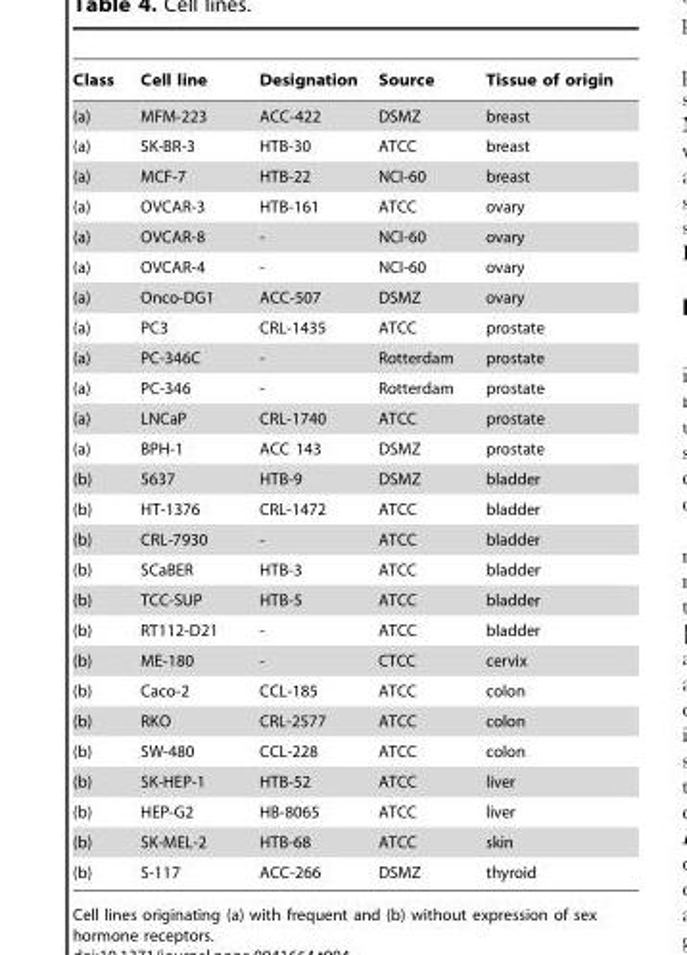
<table><thead><tr><td>Class</td><td>Cell line</td><td>Designation</td><td>Source</td><td>Tissue of origin</td></tr></thead><tbody><tr><td>(a)</td><td>MFM-223</td><td>ACC-422</td><td>DSMZ</td><td>breast</td></tr><tr><td>(a)</td><td>SK-BR-3</td><td>HTB-30</td><td>ATCC</td><td>breast</td></tr><tr><td>(a)</td><td>MCF-7</td><td>HTB-22</td><td>NCI-60</td><td>breast</td></tr><tr><td>(a)</td><td>OVCAR-3</td><td>HTB-161</td><td>ATCC</td><td>ovary</td></tr><tr><td>(a)</td><td>OVCAR-8</td><td>-</td><td>NCI-60</td><td>ovary</td></tr><tr><td>(a)</td><td>OVCAR-4</td><td>-</td><td>NCI-60</td><td>ovary</td></tr><tr><td>(a)</td><td>Onco-DG1</td><td>ACC-507</td><td>DSMZ</td><td>ovary</td></tr><tr><td>(a)</td><td>PC3</td><td>CRL-1435</td><td>ATCC</td><td>prostate</td></tr><tr><td>(a)</td><td>PC-346C</td><td>-</td><td>Rotterdam</td><td>prostate</td></tr><tr><td>(a)</td><td>PC-346</td><td>-</td><td>Rotterdam</td><td>prostate</td></tr><tr><td>(a)</td><td>LNCaP</td><td>CRL-1740</td><td>ATCC</td><td>prostate</td></tr><tr><td>(a)</td><td>BPH-1</td><td>ACC 143</td><td>DSMZ</td><td>prostate</td></tr><tr><td>(b)</td><td>5637</td><td>HTB-9</td><td>DSMZ</td><td>bladder</td></tr><tr><td>(b)</td><td>HT-1376</td><td>CRL-1472</td><td>ATCC</td><td>bladder</td></tr><tr><td>(b)</td><td>CRL-7930</td><td>-</td><td>ATCC</td><td>bladder</td></tr><tr><td>(b)</td><td>SCaBER</td><td>HTB-3</td><td>ATCC</td><td>bladder</td></tr><tr><td>(b)</td><td>TCC-SUP</td><td>HTB-5</td><td>ATCC</td><td>bladder</td></tr><tr><td>(b)</td><td>RT112-D21</td><td>-</td><td>ATCC</td><td>bladder</td></tr><tr><td>(b)</td><td>ME-180</td><td>-</td><td>CTCC</td><td>cervix</td></tr><tr><td>(b)</td><td>Caco-2</td><td>CCL-185</td><td>ATCC</td><td>colon</td></tr><tr><td>(b)</td><td>RKO</td><td>CRL-2577</td><td>ATCC</td><td>colon</td></tr><tr><td>(b)</td><td>SW-480</td><td>CCL-228</td><td>ATCC</td><td>colon</td></tr><tr><td>(b)</td><td>SK-HEP-1</td><td>HTB-52</td><td>ATCC</td><td>liver</td></tr><tr><td>(b)</td><td>HEP-G2</td><td>HB-8065</td><td>ATCC</td><td>liver</td></tr><tr><td>(b)</td><td>SK-MEL-2</td><td>HTB-68</td><td>ATCC</td><td>skin</td></tr><tr><td>(b)</td><td>S-117</td><td>ACC-266</td><td>DSMZ</td><td>thyroid</td></tr></tbody></table>